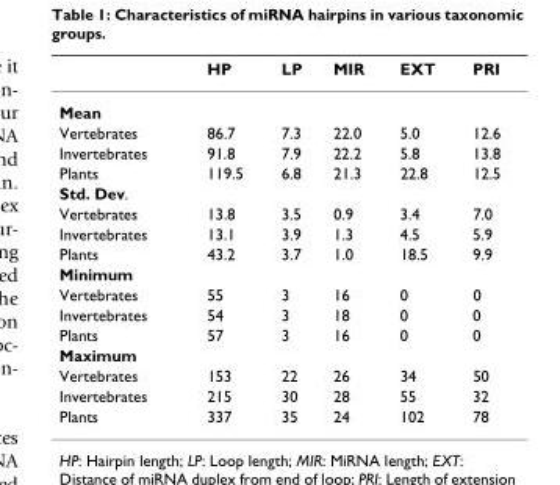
<table><thead><tr><td></td><td>HP</td><td>LP</td><td>MIR</td><td>EXT</td><td>PRI</td></tr></thead><tbody><tr><td colspan="6">Mean</td></tr><tr><td>Vertebrates</td><td>86.7</td><td>7.3</td><td>22.0</td><td>5.0</td><td>12.6</td></tr><tr><td>Invertebrates</td><td>91.8</td><td>7.9</td><td>22.2</td><td>5.8</td><td>13.8</td></tr><tr><td>Plants</td><td>119.5</td><td>6.8</td><td>21.3</td><td>22.8</td><td>12.5</td></tr><tr><td colspan="6">Std. Dev.</td></tr><tr><td>Vertebrates</td><td>13.8</td><td>3.5</td><td>0.9</td><td>3.4</td><td>7.0</td></tr><tr><td>Invertebrates</td><td>13.1</td><td>3.9</td><td>1.3</td><td>4.5</td><td>5.9</td></tr><tr><td>Plants</td><td>43.2</td><td>3.7</td><td>1.0</td><td>18.5</td><td>9.9</td></tr><tr><td colspan="6">Minimum</td></tr><tr><td>Vertebrates</td><td>55</td><td>3</td><td>16</td><td>0</td><td>0</td></tr><tr><td>Invertebrates</td><td>54</td><td>3</td><td>18</td><td>0</td><td>0</td></tr><tr><td>Plants</td><td>57</td><td>3</td><td>16</td><td>0</td><td>0</td></tr><tr><td colspan="6">Maximum</td></tr><tr><td>Vertebrates</td><td>153</td><td>22</td><td>26</td><td>34</td><td>50</td></tr><tr><td>Invertebrates</td><td>215</td><td>30</td><td>28</td><td>55</td><td>32</td></tr><tr><td>Plants</td><td>337</td><td>35</td><td>24</td><td>102</td><td>78</td></tr></tbody></table>